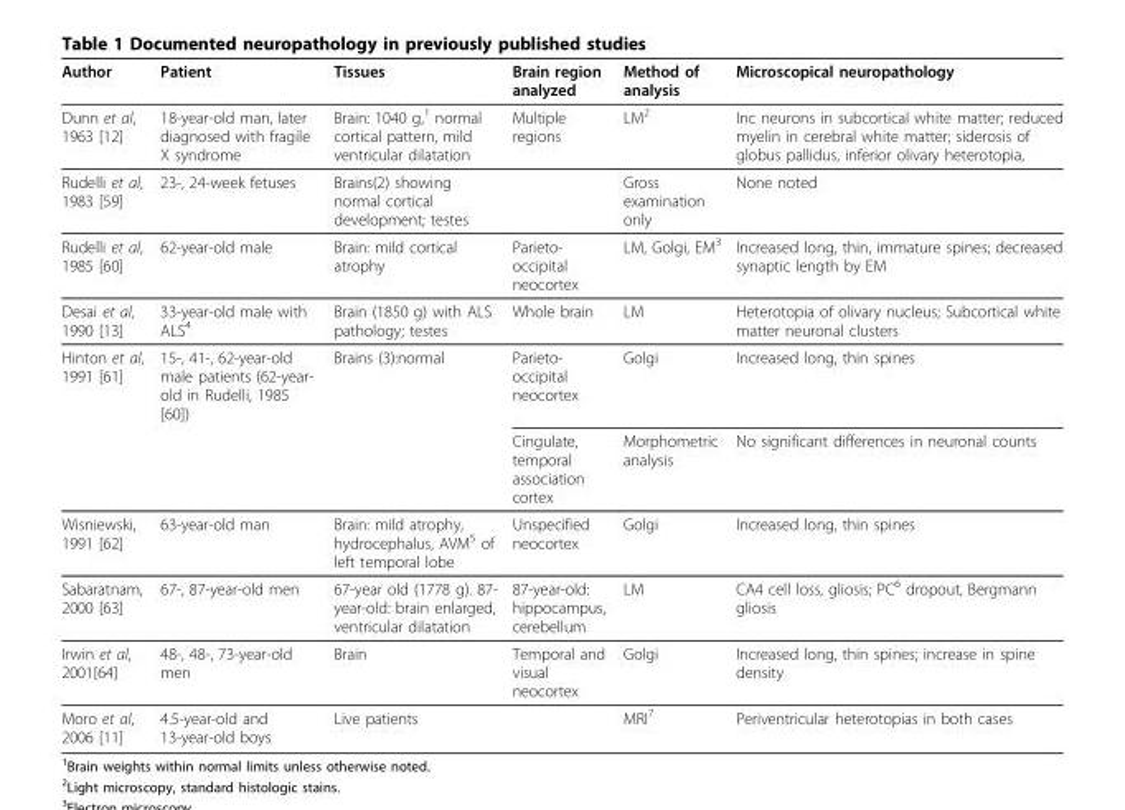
<table><thead><tr><td>Author</td><td>Patient</td><td>Tissues</td><td>Brain region analyzed</td><td>Method of analysis</td><td>Microscopical neuropathology</td></tr></thead><tbody><tr><td>Dunn et al, 1963 [12]</td><td>18-year-old man, later diagnosed with fragile X syndrome</td><td>Brain: 1040 g,<sup>1</sup> normal cortical pattern, mild ventricular dilatation</td><td>Multiple regions</td><td>LM<sup>2</sup></td><td>Inc neurons in subcortical white matter; reduced myelin in cerebral white matter; siderosis of globus pallidus, inferior olivary heterotopia,</td></tr><tr><td>Rudelli et al, 1983 [59]</td><td>23-, 24-week fetuses</td><td>Brains(2) showing normal cortical development; testes</td><td></td><td>Gross examination only</td><td>None noted</td></tr><tr><td>Rudelli et al, 1985 [60]</td><td>62-year-old male</td><td>Brain: mild cortical atrophy</td><td>Parieto- occipital neocortex</td><td>LM, Golgi, EM<sup>3</sup></td><td>Increased long, thin, immature spines; decreased synaptic length by EM</td></tr><tr><td>Desai et al, 1990 [13]</td><td>33-year-old male with ALS<sup>4</sup></td><td>Brain (1850 g) with ALS pathology; testes</td><td>Whole brain</td><td>LM</td><td>Heterotopia of olivary nucleus; Subcortical white matter neuronal clusters</td></tr><tr><td rowspan="2">Hinton et al, 1991 [61]</td><td>15-, 41-, 62-year-old male patients (62-year- old in Rudelli, 1985 [60])</td><td>Brains (3):normal</td><td>Parieto- occipital neocortex</td><td>Golgi</td><td>Increased long, thin spines</td></tr><tr><td></td><td></td><td>Cingulate, temporal association cortex</td><td>Morphometric analysis</td><td>No significant differences in neuronal counts</td></tr><tr><td>Wisniewski, 1991 [62]</td><td>63-year-old man</td><td>Brain: mild atrophy, hydrocephalus, AVM<sup>5</sup> of left temporal lobe</td><td>Unspecified neocortex</td><td>Golgi</td><td>Increased long, thin spines</td></tr><tr><td>Sabaratnam, 2000 [63]</td><td>67-, 87-year-old men</td><td>67-year old (1778 g). 87- year-old: brain enlarged, ventricular dilatation</td><td>87-year-old: hippocampus, cerebellum</td><td>LM</td><td>CA4 cell loss, gliosis; PC<sup>6</sup> dropout, Bergmann gliosis</td></tr><tr><td>Irwin et al, 2001[64]</td><td>48-, 48-, 73-year-old men</td><td>Brain</td><td>Temporal and visual neocortex</td><td>Golgi</td><td>Increased long, thin spines; increase in spine density</td></tr><tr><td>Moro et al, 2006 [11]</td><td>4.5-year-old and 13-year-old boys</td><td>Live patients</td><td></td><td>MRI<sup>7</sup></td><td>Periventricular heterotopias in both cases</td></tr></tbody></table>